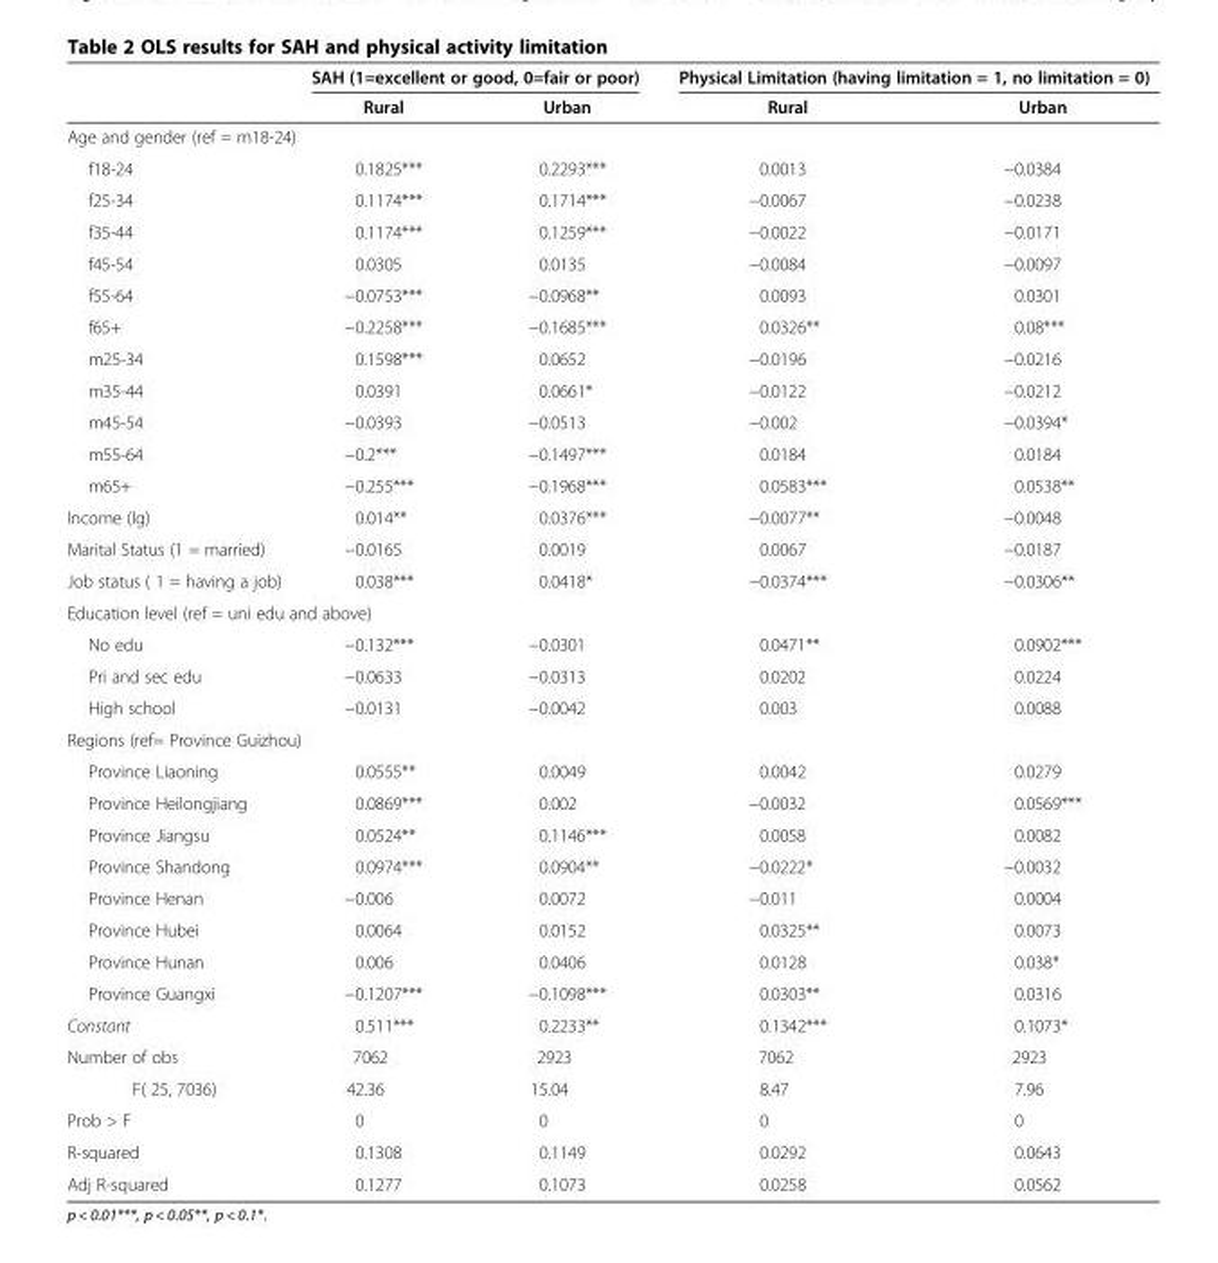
<table><thead><tr><td rowspan="2"></td><td colspan="2">SAH (1=excellent or good, 0=fair or poor)</td><td colspan="2">Physical Limitation (having limitation = 1, no limitation = 0)</td></tr><tr><td>Rural</td><td>Urban</td><td>Rural</td><td>Urban</td></tr></thead><tbody><tr><td colspan="5">Age and gender (ref = m18-24)</td></tr><tr><td>f18-24</td><td>0.1825***</td><td>0.2293***</td><td>0.0013</td><td>−0.0384</td></tr><tr><td>f25-34</td><td>0.1174***</td><td>0.1714***</td><td>−0.0067</td><td>−0.0238</td></tr><tr><td>f35-44</td><td>0.1174***</td><td>0.1259***</td><td>−0.0022</td><td>−0.0171</td></tr><tr><td>f45-54</td><td>0.0305</td><td>0.0135</td><td>−0.0084</td><td>−0.0097</td></tr><tr><td>f55-64</td><td>−0.0753***</td><td>−0.0968**</td><td>0.0093</td><td>0.0301</td></tr><tr><td>f65+</td><td>−0.2258***</td><td>−0.1685***</td><td>0.0326**</td><td>0.08***</td></tr><tr><td>m25-34</td><td>0.1598***</td><td>0.0652</td><td>−0.0196</td><td>−0.0216</td></tr><tr><td>m35-44</td><td>0.0391</td><td>0.0661*</td><td>−0.0122</td><td>−0.0212</td></tr><tr><td>m45-54</td><td>−0.0393</td><td>−0.0513</td><td>−0.002</td><td>−0.0394*</td></tr><tr><td>m55-64</td><td>−0.2***</td><td>−0.1497***</td><td>0.0184</td><td>0.0184</td></tr><tr><td>m65+</td><td>−0.255***</td><td>−0.1968***</td><td>0.0583***</td><td>0.0538**</td></tr><tr><td>Income (lg)</td><td>0.014**</td><td>0.0376***</td><td>−0.0077**</td><td>−0.0048</td></tr><tr><td>Marital Status (1 = married)</td><td>−0.0165</td><td>0.0019</td><td>0.0067</td><td>−0.0187</td></tr><tr><td>Job status ( 1 = having a job)</td><td>0.038***</td><td>0.0418*</td><td>−0.0374***</td><td>−0.0306**</td></tr><tr><td colspan="5">Education level (ref = uni edu and above)</td></tr><tr><td>No edu</td><td>−0.132***</td><td>−0.0301</td><td>0.0471**</td><td>0.0902***</td></tr><tr><td>Pri and sec edu</td><td>−0.0633</td><td>−0.0313</td><td>0.0202</td><td>0.0224</td></tr><tr><td>High school</td><td>−0.0131</td><td>−0.0042</td><td>0.003</td><td>0.0088</td></tr><tr><td colspan="5">Regions (ref= Province Guizhou)</td></tr><tr><td>Province Liaoning</td><td>0.0555**</td><td>0.0049</td><td>0.0042</td><td>0.0279</td></tr><tr><td>Province Heilongjiang</td><td>0.0869***</td><td>0.002</td><td>−0.0032</td><td>0.0569***</td></tr><tr><td>Province Jiangsu</td><td>0.0524**</td><td>0.1146***</td><td>0.0058</td><td>0.0082</td></tr><tr><td>Province Shandong</td><td>0.0974***</td><td>0.0904**</td><td>−0.0222*</td><td>−0.0032</td></tr><tr><td>Province Henan</td><td>−0.006</td><td>0.0072</td><td>−0.011</td><td>0.0004</td></tr><tr><td>Province Hubei</td><td>0.0064</td><td>0.0152</td><td>0.0325**</td><td>0.0073</td></tr><tr><td>Province Hunan</td><td>0.006</td><td>0.0406</td><td>0.0128</td><td>0.038*</td></tr><tr><td>Province Guangxi</td><td>−0.1207***</td><td>−0.1098***</td><td>0.0303**</td><td>0.0316</td></tr><tr><td>Constant</td><td>0.511***</td><td>0.2233**</td><td>0.1342***</td><td>0.1073*</td></tr><tr><td>Number of obs</td><td>7062</td><td>2923</td><td>7062</td><td>2923</td></tr><tr><td>F( 25, 7036)</td><td>42.36</td><td>15.04</td><td>8.47</td><td>7.96</td></tr><tr><td>Prob &gt; F</td><td>0</td><td>0</td><td>0</td><td>0</td></tr><tr><td>R-squared</td><td>0.1308</td><td>0.1149</td><td>0.0292</td><td>0.0643</td></tr><tr><td>Adj R-squared</td><td>0.1277</td><td>0.1073</td><td>0.0258</td><td>0.0562</td></tr></tbody></table>